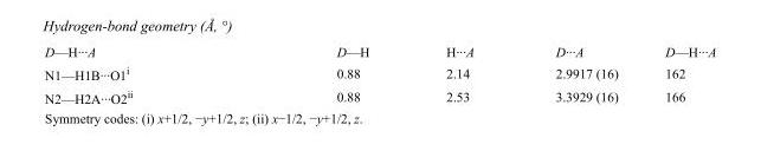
<table><tbody><tr><td>D—H···A</td><td>D—H</td><td>H···A</td><td>D···A</td><td>D—H···A</td></tr><tr><td>N1—H1B···O1<sup>i</sup></td><td>0.88</td><td>2.14</td><td>2.9917 (16)</td><td>162</td></tr><tr><td>N2—H2A···O2<sup>ii</sup></td><td>0.88</td><td>2.53</td><td>3.3929 (16)</td><td>166</td></tr></tbody></table>